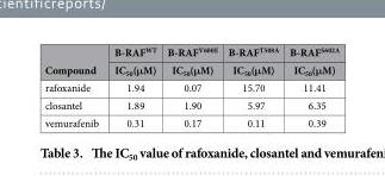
<table><thead><tr><td rowspan="2">Compound</td><td rowspan="2">B-RAF<sup>WT</sup> IC<sub>50</sub>(μ M)</td><td rowspan="2">B-RAF<sup>V600E</sup> IC<sub>50</sub>(μ M)</td><td rowspan="2">B-RAF<sup>T508A</sup> IC<sub>50</sub>(μ M)</td><td rowspan="2">B-RAF<sup>S602A</sup> IC<sub>50</sub>(μ M)</td></tr><tr></tr></thead><tbody><tr><td>rafoxanide</td><td>1.94</td><td>0.07</td><td>15.70</td><td>11.41</td></tr><tr><td>closantel</td><td>1.89</td><td>1.90</td><td>5.97</td><td>6.35</td></tr><tr><td>vemurafenib</td><td>0.31</td><td>0.17</td><td>0.11</td><td>0.39</td></tr></tbody></table>